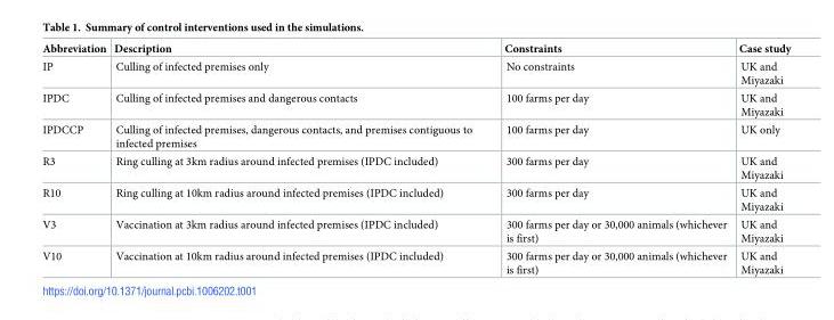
<table><thead><tr><td>Abbreviation</td><td>Description</td><td>Constraints</td><td>Case study</td></tr></thead><tbody><tr><td>IP</td><td>Culling of infected premises only</td><td>No constraints</td><td>UK and Miyazaki</td></tr><tr><td>IPDC</td><td>Culling of infected premises and dangerous contacts</td><td>100 farms per day</td><td>UK and Miyazaki</td></tr><tr><td>IPDCCP</td><td>Culling of infected premises, dangerous contacts, and premises contiguous to infected premises</td><td>100 farms per day</td><td>UK only</td></tr><tr><td>R3</td><td>Ring culling at 3km radius around infected premises (IPDC included)</td><td>300 farms per day</td><td>UK and Miyazaki</td></tr><tr><td>R10</td><td>Ring culling at 10km radius around infected premises (IPDC included)</td><td>300 farms per day</td><td>UK and Miyazaki</td></tr><tr><td>V3</td><td>Vaccination at 3km radius around infected premises (IPDC included)</td><td>300 farms per day or 30,000 animals (whichever is first)</td><td>UK and Miyazaki</td></tr><tr><td>V10</td><td>Vaccination at 10km radius around infected premises (IPDC included)</td><td>300 farms per day or 30,000 animals (whichever is first)</td><td>UK and Miyazaki</td></tr></tbody></table>